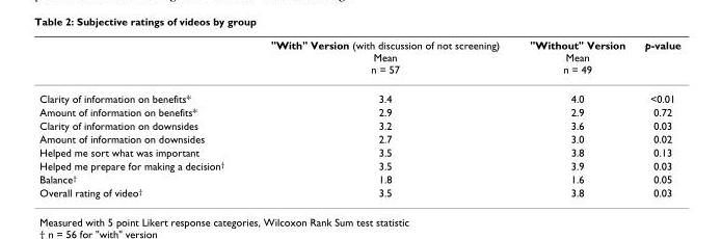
<table><thead><tr><td></td><td>&quot;With&quot; Version (with discussion of not screening) Mean n = 57</td><td>&quot;Without&quot; Version Mean n = 49</td><td>p-value</td></tr></thead><tbody><tr><td>Clarity of information on benefits*</td><td>3.4</td><td>4.0</td><td>&lt;0.01</td></tr><tr><td>Amount of information on benefits*</td><td>2.9</td><td>2.9</td><td>0.72</td></tr><tr><td>Clarity of information on downsides</td><td>3.2</td><td>3.6</td><td>0.03</td></tr><tr><td>Amount of information on downsides</td><td>2.7</td><td>3.0</td><td>0.02</td></tr><tr><td>Helped me sort what was important</td><td>3.5</td><td>3.8</td><td>0.13</td></tr><tr><td>Helped me prepare for making a decision<sup>†</sup></td><td>3.5</td><td>3.9</td><td>0.03</td></tr><tr><td>Balance<sup>†</sup></td><td>1.8</td><td>1.6</td><td>0.05</td></tr><tr><td>Overall rating of video<sup>†</sup></td><td>3.5</td><td>3.8</td><td>0.03</td></tr></tbody></table>